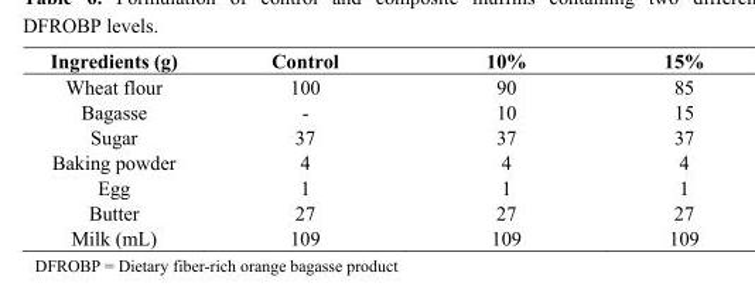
<table><thead><tr><td>Ingredients (g)</td><td>Control</td><td>10%</td><td>15%</td></tr></thead><tbody><tr><td>Wheat flour</td><td>100</td><td>90</td><td>85</td></tr><tr><td>Bagasse</td><td>-</td><td>10</td><td>15</td></tr><tr><td>Sugar</td><td>37</td><td>37</td><td>37</td></tr><tr><td>Baking powder</td><td>4</td><td>4</td><td>4</td></tr><tr><td>Egg</td><td>1</td><td>1</td><td>1</td></tr><tr><td>Butter</td><td>27</td><td>27</td><td>27</td></tr><tr><td>Milk (mL)</td><td>109</td><td>109</td><td>109</td></tr></tbody></table>